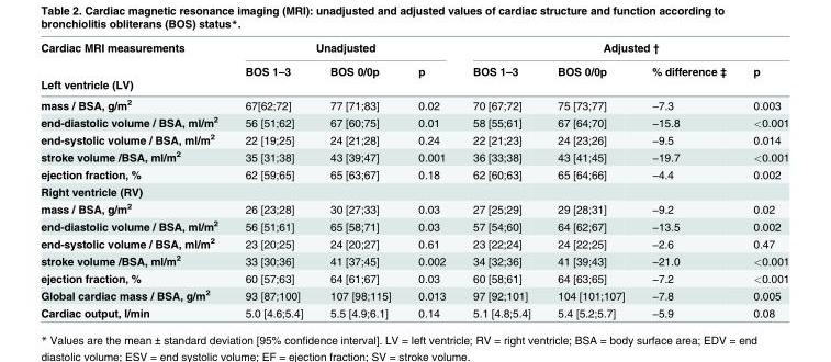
<table><thead><tr><td rowspan="3">Cardiac MRI measurements Left ventricle (LV)</td><td colspan="3">Unadjusted</td><td colspan="4">Adjusted †</td></tr><tr><td rowspan="2">BOS 1–3</td><td rowspan="2">BOS 0/0p</td><td rowspan="2">p</td><td rowspan="2">BOS 1–3</td><td rowspan="2">BOS 0/0p</td><td rowspan="2">% difference ‡</td><td rowspan="2">p</td></tr><tr></tr></thead><tbody><tr><td>mass / BSA, g/m<sup>2</sup></td><td>67[62;72]</td><td>77 [71;83]</td><td>0.02</td><td>70 [67;72]</td><td>75 [73;77]</td><td>−7.3</td><td>0.003</td></tr><tr><td>end-diastolic volume / BSA, ml/m<sup>2</sup></td><td>56 [51;62]</td><td>67 [60;75]</td><td>0.01</td><td>58 [55;61]</td><td>67 [64;70]</td><td>−15.8</td><td>&lt;0.001</td></tr><tr><td>end-systolic volume / BSA, ml/m<sup>2</sup></td><td>22 [19;25]</td><td>24 [21;28]</td><td>0.24</td><td>22 [21;23]</td><td>24 [23;26]</td><td>−9.5</td><td>0.014</td></tr><tr><td>stroke volume /BSA, ml/m<sup>2</sup></td><td>35 [31;38]</td><td>43 [39;47]</td><td>0.001</td><td>36 [33;38]</td><td>43 [41;45]</td><td>−19.7</td><td>&lt;0.001</td></tr><tr><td>ejection fraction, %</td><td>62 [59;65]</td><td>65 [63;67]</td><td>0.18</td><td>62 [60;63]</td><td>65 [64;66]</td><td>−4.4</td><td>0.002</td></tr><tr><td colspan="8">Right ventricle (RV)</td></tr><tr><td>mass / BSA, g/m<sup>2</sup></td><td>26 [23;28]</td><td>30 [27;33]</td><td>0.03</td><td>27 [25;29]</td><td>29 [28;31]</td><td>−9.2</td><td>0.02</td></tr><tr><td>end-diastolic volume / BSA, ml/m<sup>2</sup></td><td>56 [51;61]</td><td>65 [58;71]</td><td>0.03</td><td>57 [54;60]</td><td>64 [62;67]</td><td>−13.5</td><td>0.002</td></tr><tr><td>end-systolic volume / BSA, ml/m<sup>2</sup></td><td>23 [20;25]</td><td>24 [20;27]</td><td>0.61</td><td>23 [22;24]</td><td>24 [22;25]</td><td>−2.6</td><td>0.47</td></tr><tr><td>stroke volume /BSA, ml/m<sup>2</sup></td><td>33 [30;36]</td><td>41 [37;45]</td><td>0.002</td><td>34 [32;36]</td><td>41 [39;43]</td><td>−21.0</td><td>&lt;0.001</td></tr><tr><td>ejection fraction, %</td><td>60 [57;63]</td><td>64 [61;67]</td><td>0.03</td><td>60 [58;61]</td><td>64 [63;65]</td><td>−7.2</td><td>&lt;0.001</td></tr><tr><td>Global cardiac mass / BSA, g/m<sup>2</sup></td><td>93 [87;100]</td><td>107 [98;115]</td><td>0.013</td><td>97 [92;101]</td><td>104 [101;107]</td><td>−7.8</td><td>0.005</td></tr><tr><td>Cardiac output, l/min</td><td>5.0 [4.6;5.4]</td><td>5.5 [4.9;6.1]</td><td>0.14</td><td>5.1 [4.8;5.4]</td><td>5.4 [5.2;5.7]</td><td>−5.9</td><td>0.08</td></tr></tbody></table>